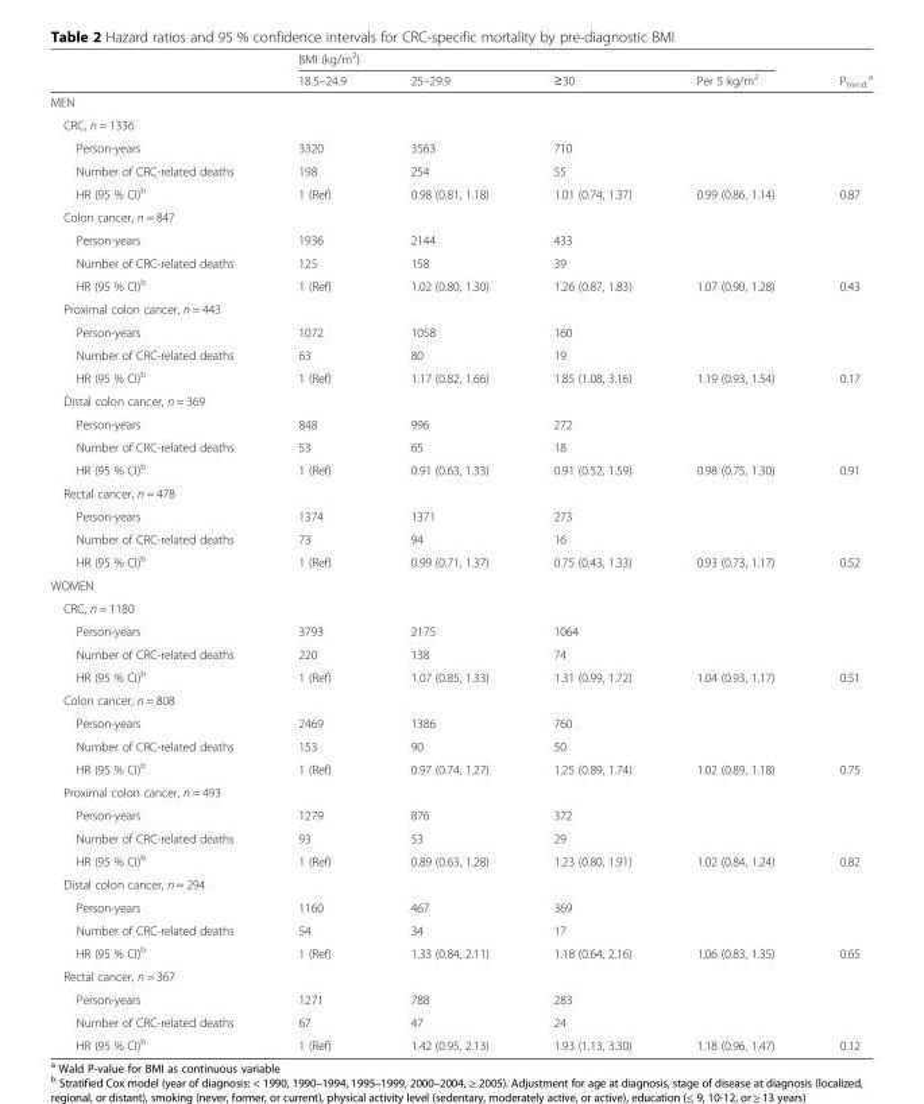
<table><thead><tr><td rowspan="2"></td><td colspan="4">BMI (kg/m<sup>2</sup>)</td><td rowspan="2">P<sub>trend</sub> <sup>a</sup></td></tr><tr><td>18.5–24.9</td><td>25–29.9</td><td>≥30</td><td>Per 5 kg/m<sup>2</sup></td></tr></thead><tbody><tr><td colspan="6">MEN</td></tr><tr><td colspan="6">CRC, n = 1336</td></tr><tr><td>Person-years</td><td>3320</td><td>3563</td><td>710</td><td></td><td></td></tr><tr><td>Number of CRC-related deaths</td><td>198</td><td>254</td><td>55</td><td></td><td></td></tr><tr><td>HR (95 % CI)<sup>b</sup></td><td>1 (Ref)</td><td>0.98 (0.81, 1.18)</td><td>1.01 (0.74, 1.37)</td><td>0.99 (0.86, 1.14)</td><td>0.87</td></tr><tr><td colspan="6">Colon cancer, n = 847</td></tr><tr><td>Person-years</td><td>1936</td><td>2144</td><td>433</td><td></td><td></td></tr><tr><td>Number of CRC-related deaths</td><td>125</td><td>158</td><td>39</td><td></td><td></td></tr><tr><td>HR (95 % CI)<sup>b</sup></td><td>1 (Ref)</td><td>1.02 (0.80, 1.30)</td><td>1.26 (0.87, 1.83)</td><td>1.07 (0.90, 1.28)</td><td>0.43</td></tr><tr><td colspan="6">Proximal colon cancer, n = 443</td></tr><tr><td>Person-years</td><td>1072</td><td>1058</td><td>160</td><td></td><td></td></tr><tr><td>Number of CRC-related deaths</td><td>63</td><td>80</td><td>19</td><td></td><td></td></tr><tr><td>HR (95 % CI)<sup>b</sup></td><td>1 (Ref)</td><td>1.17 (0.82, 1.66)</td><td>1.85 (1.08, 3.16)</td><td>1.19 (0.93, 1.54)</td><td>0.17</td></tr><tr><td colspan="6">Distal colon cancer, n = 369</td></tr><tr><td>Person-years</td><td>848</td><td>996</td><td>272</td><td></td><td></td></tr><tr><td>Number of CRC-related deaths</td><td>53</td><td>65</td><td>18</td><td></td><td></td></tr><tr><td>HR (95 % CI)<sup>b</sup></td><td>1 (Ref)</td><td>0.91 (0.63, 1.33)</td><td>0.91 (0.52, 1.59)</td><td>0.98 (0.75, 1.30)</td><td>0.91</td></tr><tr><td colspan="6">Rectal cancer, n = 478</td></tr><tr><td>Person-years</td><td>1374</td><td>1371</td><td>273</td><td></td><td></td></tr><tr><td>Number of CRC-related deaths</td><td>73</td><td>94</td><td>16</td><td></td><td></td></tr><tr><td>HR (95 % CI)<sup>b</sup></td><td>1 (Ref)</td><td>0.99 (0.71, 1.37)</td><td>0.75 (0.43, 1.33)</td><td>0.93 (0.73, 1.17)</td><td>0.52</td></tr><tr><td colspan="6">WOMEN</td></tr><tr><td colspan="6">CRC, n = 1180</td></tr><tr><td>Person-years</td><td>3793</td><td>2175</td><td>1064</td><td></td><td></td></tr><tr><td>Number of CRC-related deaths</td><td>220</td><td>138</td><td>74</td><td></td><td></td></tr><tr><td>HR (95 % CI)<sup>b</sup></td><td>1 (Ref)</td><td>1.07 (0.85, 1.33)</td><td>1.31 (0.99, 1.72)</td><td>1.04 (0.93, 1.17)</td><td>0.51</td></tr><tr><td colspan="6">Colon cancer, n = 808</td></tr><tr><td>Person-years</td><td>2469</td><td>1386</td><td>760</td><td></td><td></td></tr><tr><td>Number of CRC-related deaths</td><td>153</td><td>90</td><td>50</td><td></td><td></td></tr><tr><td>HR (95 % CI)<sup>b</sup></td><td>1 (Ref)</td><td>0.97 (0.74, 1.27)</td><td>1.25 (0.89, 1.74)</td><td>1.02 (0.89, 1.18)</td><td>0.75</td></tr><tr><td colspan="6">Proximal colon cancer, n = 493</td></tr><tr><td>Person-years</td><td>1279</td><td>876</td><td>372</td><td></td><td></td></tr><tr><td>Number of CRC-related deaths</td><td>93</td><td>53</td><td>29</td><td></td><td></td></tr><tr><td>HR (95 % CI)<sup>b</sup></td><td>1 (Ref)</td><td>0.89 (0.63, 1.28)</td><td>1.23 (0.80, 1.91)</td><td>1.02 (0.84, 1.24)</td><td>0.82</td></tr><tr><td colspan="6">Distal colon cancer, n = 294</td></tr><tr><td>Person-years</td><td>1160</td><td>467</td><td>369</td><td></td><td></td></tr><tr><td>Number of CRC-related deaths</td><td>54</td><td>34</td><td>17</td><td></td><td></td></tr><tr><td>HR (95 % CI)<sup>b</sup></td><td>1 (Ref)</td><td>1.33 (0.84, 2.11)</td><td>1.18 (0.64, 2.16)</td><td>1.06 (0.83, 1.35)</td><td>0.65</td></tr><tr><td colspan="6">Rectal cancer, n = 367</td></tr><tr><td>Person-years</td><td>1271</td><td>788</td><td>283</td><td></td><td></td></tr><tr><td>Number of CRC-related deaths</td><td>67</td><td>47</td><td>24</td><td></td><td></td></tr><tr><td>HR (95 % CI)<sup>b</sup></td><td>1 (Ref)</td><td>1.42 (0.95, 2.13)</td><td>1.93 (1.13, 3.30)</td><td>1.18 (0.96, 1.47)</td><td>0.12</td></tr></tbody></table>